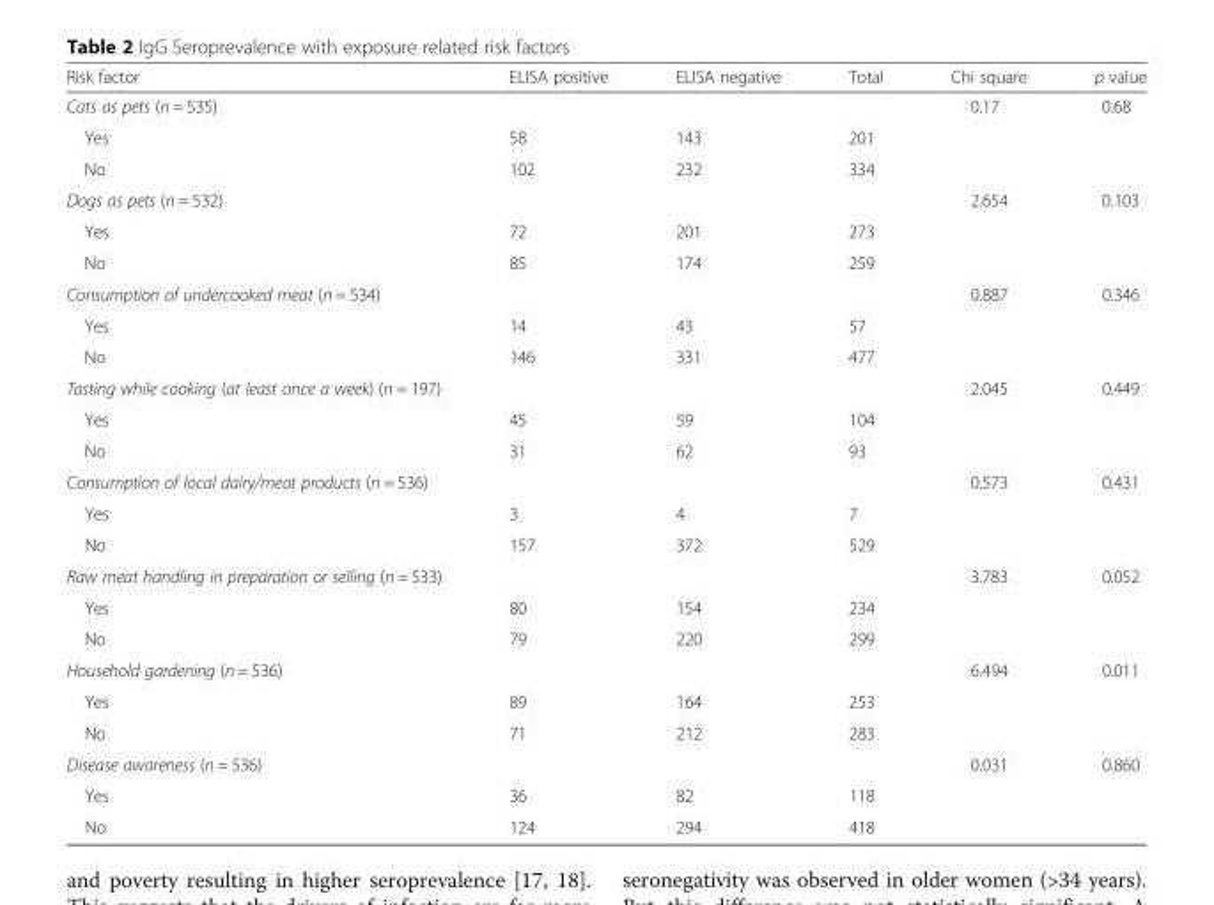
<table><thead><tr><td>Risk factor</td><td>ELISA positive</td><td>ELISA negative</td><td>Total</td><td>Chi square</td><td>p value</td></tr></thead><tbody><tr><td>Cats as pets (n = 535)</td><td colspan="3"></td><td>0.17</td><td>0.68</td></tr><tr><td>Yes</td><td>58</td><td>143</td><td>201</td><td></td><td></td></tr><tr><td>No</td><td>102</td><td>232</td><td>334</td><td></td><td></td></tr><tr><td>Dogs as pets (n = 532)</td><td colspan="3"></td><td>2.654</td><td>0.103</td></tr><tr><td>Yes</td><td>72</td><td>201</td><td>273</td><td></td><td></td></tr><tr><td>No</td><td>85</td><td>174</td><td>259</td><td></td><td></td></tr><tr><td>Consumption of undercooked meat (n = 534)</td><td colspan="3"></td><td>0.887</td><td>0.346</td></tr><tr><td>Yes</td><td>14</td><td>43</td><td>57</td><td></td><td></td></tr><tr><td>No</td><td>146</td><td>331</td><td>477</td><td></td><td></td></tr><tr><td>Tasting while cooking (at least once a week) (n = 197)</td><td colspan="3"></td><td>2.045</td><td>0.449</td></tr><tr><td>Yes</td><td>45</td><td>59</td><td>104</td><td></td><td></td></tr><tr><td>No</td><td>31</td><td>62</td><td>93</td><td></td><td></td></tr><tr><td>Consumption of local dairy/meat products (n = 536)</td><td colspan="3"></td><td>0.573</td><td>0.431</td></tr><tr><td>Yes</td><td>3</td><td>4</td><td>7</td><td></td><td></td></tr><tr><td>No</td><td>157</td><td>372</td><td>529</td><td></td><td></td></tr><tr><td>Raw meat handling in preparation or selling (n = 533)</td><td colspan="3"></td><td>3.783</td><td>0.052</td></tr><tr><td>Yes</td><td>80</td><td>154</td><td>234</td><td></td><td></td></tr><tr><td>No</td><td>79</td><td>220</td><td>299</td><td></td><td></td></tr><tr><td>Household gardening (n = 536)</td><td colspan="3"></td><td>6.494</td><td>0.011</td></tr><tr><td>Yes</td><td>89</td><td>164</td><td>253</td><td></td><td></td></tr><tr><td>No</td><td>71</td><td>212</td><td>283</td><td></td><td></td></tr><tr><td>Disease awareness (n = 536)</td><td colspan="3"></td><td>0.031</td><td>0.860</td></tr><tr><td>Yes</td><td>36</td><td>82</td><td>118</td><td></td><td></td></tr><tr><td>No</td><td>124</td><td>294</td><td>418</td><td></td><td></td></tr></tbody></table>